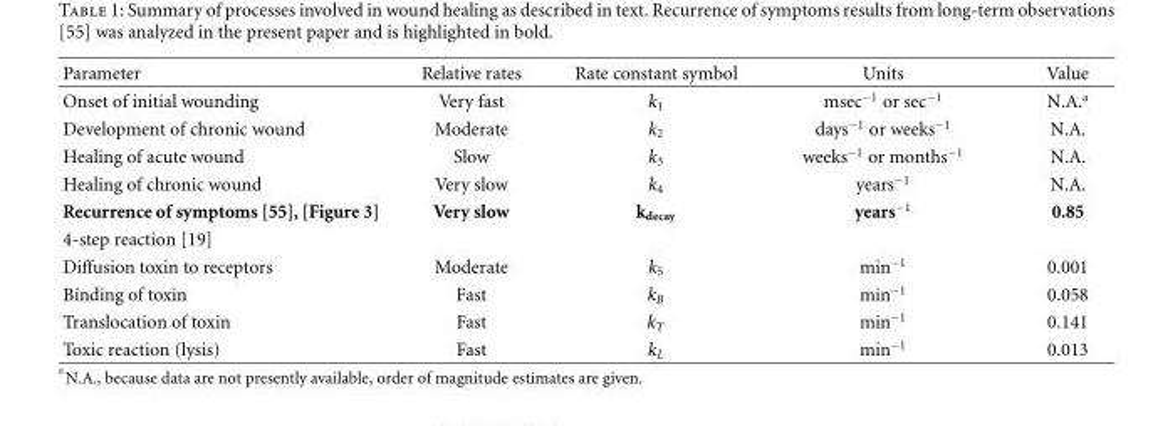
<table><thead><tr><td>Parameter</td><td>Relative rates</td><td>Rate constant symbol</td><td>Units</td><td>Value</td></tr></thead><tbody><tr><td>Onset of initial wounding</td><td>Very fast</td><td>k<sub>1</sub></td><td>msec<sup>−1</sup> or sec<sup>−1</sup></td><td>N.A.<sup>a</sup></td></tr><tr><td>Development of chronic wound</td><td>Moderate</td><td>k<sub>2</sub></td><td>days<sup>−1</sup> or weeks<sup>−1</sup></td><td>N.A.</td></tr><tr><td>Healing of acute wound</td><td>Slow</td><td>k<sub>3</sub></td><td>weeks<sup>−1</sup> or months<sup>−1</sup></td><td>N.A.</td></tr><tr><td>Healing of chronic wound</td><td>Very slow</td><td>k<sub>4</sub></td><td>years<sup>−1</sup></td><td>N.A.</td></tr><tr><td>Recurrence of symptoms [55], [Figure 3]</td><td>Very slow</td><td>k<sub>decay</sub></td><td>years<sup>−1</sup></td><td>0.85</td></tr><tr><td colspan="5">4-step reaction [19]</td></tr><tr><td>Diffusion toxin to receptors</td><td>Moderate</td><td>k<sub>5</sub></td><td>min<sup>−1</sup></td><td>0.001</td></tr><tr><td>Binding of toxin</td><td>Fast</td><td>k<sub>B</sub></td><td>min<sup>−1</sup></td><td>0.058</td></tr><tr><td>Translocation of toxin</td><td>Fast</td><td>k<sub>T</sub></td><td>min<sup>−1</sup></td><td>0.141</td></tr><tr><td>Toxic reaction (lysis)</td><td>Fast</td><td>k<sub>L</sub></td><td>min<sup>−1</sup></td><td>0.013</td></tr></tbody></table>